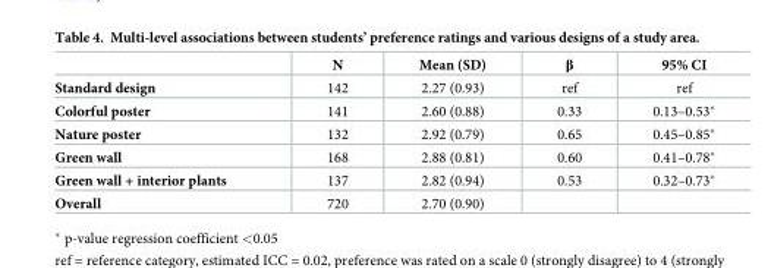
<table><thead><tr><td></td><td>N</td><td>Mean (SD)</td><td>β</td><td>95% CI</td></tr></thead><tbody><tr><td>Standard design</td><td>142</td><td>2.27 (0.93)</td><td>ref</td><td>ref</td></tr><tr><td>Colorful poster</td><td>141</td><td>2.60 (0.88)</td><td>0.33</td><td>0.13–0.53*</td></tr><tr><td>Nature poster</td><td>132</td><td>2.92 (0.79)</td><td>0.65</td><td>0.45–0.85*</td></tr><tr><td>Green wall</td><td>168</td><td>2.88 (0.81)</td><td>0.60</td><td>0.41–0.78*</td></tr><tr><td>Green wall + interior plants</td><td>137</td><td>2.82 (0.94)</td><td>0.53</td><td>0.32–0.73*</td></tr><tr><td>Overall</td><td>720</td><td>2.70 (0.90)</td><td></td><td></td></tr></tbody></table>